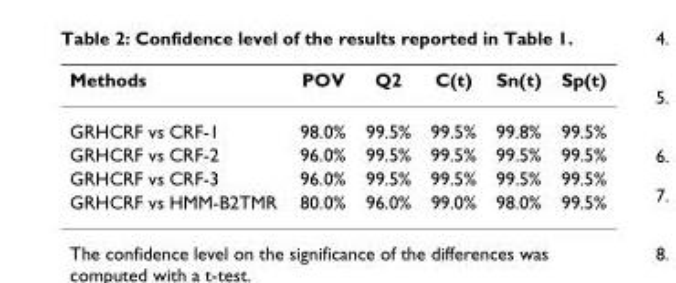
<table><thead><tr><td>Methods</td><td>POV</td><td>Q2</td><td>C(t)</td><td>Sn(t)</td><td>Sp(t)</td></tr></thead><tbody><tr><td>GRHCRF vs CRF-1</td><td>98.0%</td><td>99.5%</td><td>99.5%</td><td>99.8%</td><td>99.5%</td></tr><tr><td>GRHCRF vs CRF-2</td><td>96.0%</td><td>99.5%</td><td>99.5%</td><td>99.5%</td><td>99.5%</td></tr><tr><td>GRHCRF vs CRF-3</td><td>96.0%</td><td>99.5%</td><td>99.5%</td><td>99.5%</td><td>99.5%</td></tr><tr><td>GRHCRF vs HMM-B2TMR</td><td>80.0%</td><td>96.0%</td><td>99.0%</td><td>98.0%</td><td>99.5%</td></tr></tbody></table>